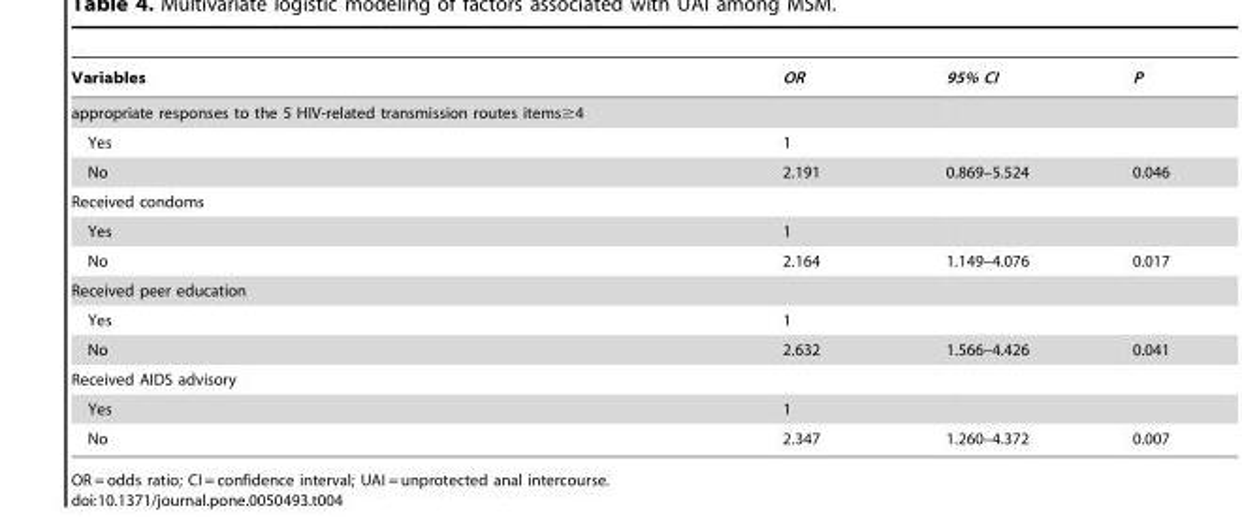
<table><thead><tr><td>Variables</td><td>OR</td><td>95% CI</td><td>P</td></tr></thead><tbody><tr><td colspan="4">appropriate responses to the 5 HIV-related transmission routes items≥4</td></tr><tr><td>Yes</td><td>1</td><td></td><td></td></tr><tr><td>No</td><td>2.191</td><td>0.869–5.524</td><td>0.046</td></tr><tr><td colspan="4">Received condoms</td></tr><tr><td>Yes</td><td>1</td><td></td><td></td></tr><tr><td>No</td><td>2.164</td><td>1.149–4.076</td><td>0.017</td></tr><tr><td colspan="4">Received peer education</td></tr><tr><td>Yes</td><td>1</td><td></td><td></td></tr><tr><td>No</td><td>2.632</td><td>1.566–4.426</td><td>0.041</td></tr><tr><td colspan="4">Received AIDS advisory</td></tr><tr><td>Yes</td><td>1</td><td></td><td></td></tr><tr><td>No</td><td>2.347</td><td>1.260–4.372</td><td>0.007</td></tr></tbody></table>